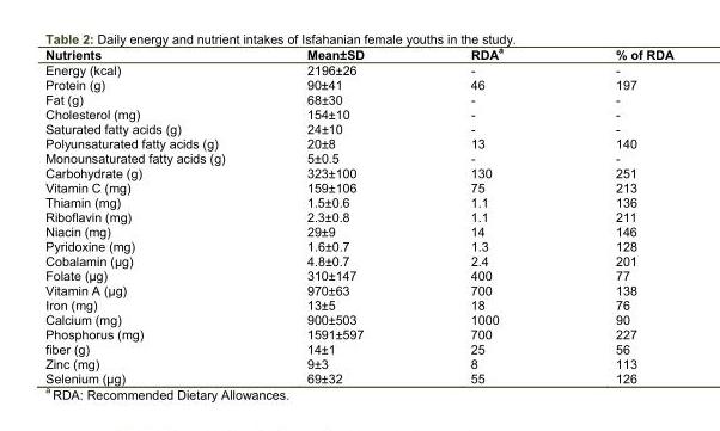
<table><thead><tr><td>Nutrients</td><td>Mean±SD</td><td>RDA<sup>a</sup></td><td>% of RDA</td></tr></thead><tbody><tr><td>Energy (kcal)</td><td>2196±26</td><td>-</td><td>-</td></tr><tr><td>Protein (g)</td><td>90±41</td><td>46</td><td>197</td></tr><tr><td>Fat (g)</td><td>68±30</td><td>-</td><td>-</td></tr><tr><td>Cholesterol (mg)</td><td>154±10</td><td>-</td><td>-</td></tr><tr><td>Saturated fatty acids (g)</td><td>24±10</td><td>-</td><td>-</td></tr><tr><td>Polyunsaturated fatty acids (g)</td><td>20±8</td><td>13</td><td>140</td></tr><tr><td>Monounsaturated fatty acids (g)</td><td>5±0.5</td><td>-</td><td>-</td></tr><tr><td>Carbohydrate (g)</td><td>323±100</td><td>130</td><td>251</td></tr><tr><td>Vitamin C (mg)</td><td>159±106</td><td>75</td><td>213</td></tr><tr><td>Thiamin (mg)</td><td>1.5±0.6</td><td>1.1</td><td>136</td></tr><tr><td>Riboflavin (mg)</td><td>2.3±0.8</td><td>1.1</td><td>211</td></tr><tr><td>Niacin (mg)</td><td>29±9</td><td>14</td><td>146</td></tr><tr><td>Pyridoxine (mg)</td><td>1.6±0.7</td><td>1.3</td><td>128</td></tr><tr><td>Cobalamin (μg)</td><td>4.8±0.7</td><td>2.4</td><td>201</td></tr><tr><td>Folate (μg)</td><td>310±147</td><td>400</td><td>77</td></tr><tr><td>Vitamin A (μg)</td><td>970±63</td><td>700</td><td>138</td></tr><tr><td>Iron (mg)</td><td>13±5</td><td>18</td><td>76</td></tr><tr><td>Calcium (mg)</td><td>900±503</td><td>1000</td><td>90</td></tr><tr><td>Phosphorus (mg)</td><td>1591±597</td><td>700</td><td>227</td></tr><tr><td>fiber (g)</td><td>14±1</td><td>25</td><td>56</td></tr><tr><td>Zinc (mg)</td><td>9±3</td><td>8</td><td>113</td></tr><tr><td>Selenium (μg)</td><td>69±32</td><td>55</td><td>126</td></tr></tbody></table>